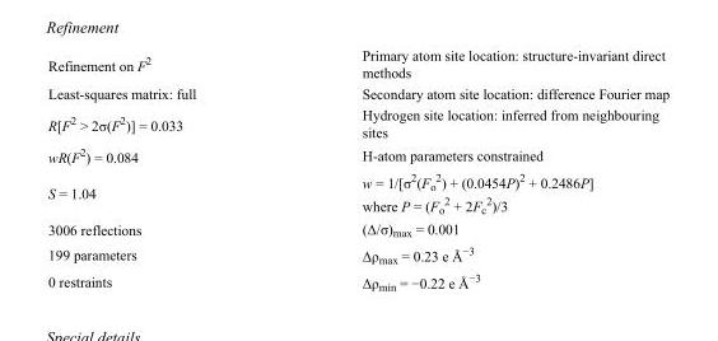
<table><tbody><tr><td>Refinement on F<sup>2</sup></td><td>Primary atom site location: structure-invariant direct methods</td></tr><tr><td>Least-squares matrix: full</td><td>Secondary atom site location: difference Fourier map</td></tr><tr><td>R[F<sup>2</sup> &gt; 2σ(F<sup>2</sup>)] = 0.033</td><td>Hydrogen site location: inferred from neighbouring sites</td></tr><tr><td>wR(F<sup>2</sup>) = 0.084</td><td>H-atom parameters constrained</td></tr><tr><td>S = 1.04</td><td>w = 1/[σ<sup>2</sup>(F<sub>o</sub> <sup>2</sup>) + (0.0454P)<sup>2</sup> + 0.2486P] where P = (F<sub>o</sub> <sup>2</sup> + 2F<sub>c</sub> <sup>2</sup>)/3</td></tr><tr><td>3006 reflections</td><td>(Δ/σ)<sub>max</sub> = 0.001</td></tr><tr><td>199 parameters</td><td>Δρ<sub>max</sub> = 0.23 e Å<sup>−3</sup></td></tr><tr><td>0 restraints</td><td>Δρ<sub>min</sub> = −0.22 e Å<sup>−3</sup></td></tr></tbody></table>